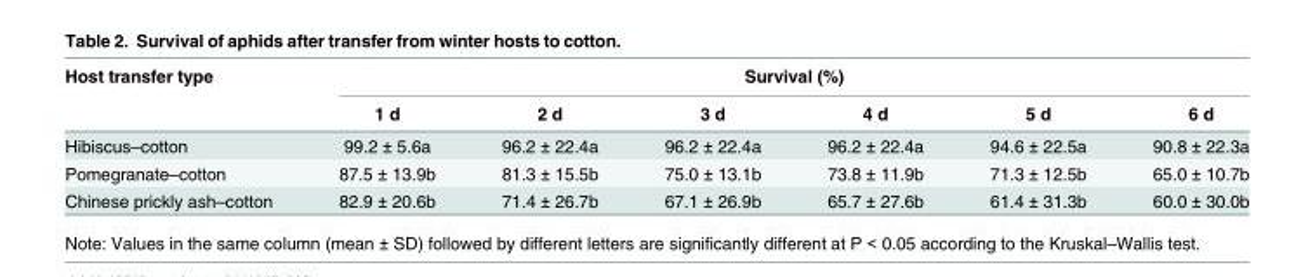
<table><thead><tr><td rowspan="2">Host transfer type</td><td colspan="6">Survival (%)</td></tr><tr><td>1 d</td><td>2 d</td><td>3 d</td><td>4 d</td><td>5 d</td><td>6 d</td></tr></thead><tbody><tr><td>Hibiscus–cotton</td><td>99.2 ± 5.6a</td><td>96.2 ± 22.4a</td><td>96.2 ± 22.4a</td><td>96.2 ± 22.4a</td><td>94.6 ± 22.5a</td><td>90.8 ± 22.3a</td></tr><tr><td>Pomegranate–cotton</td><td>87.5 ± 13.9b</td><td>81.3 ± 15.5b</td><td>75.0 ± 13.1b</td><td>73.8 ± 11.9b</td><td>71.3 ± 12.5b</td><td>65.0 ± 10.7b</td></tr><tr><td>Chinese prickly ash–cotton</td><td>82.9 ± 20.6b</td><td>71.4 ± 26.7b</td><td>67.1 ± 26.9b</td><td>65.7 ± 27.6b</td><td>61.4 ± 31.3b</td><td>60.0 ± 30.0b</td></tr></tbody></table>